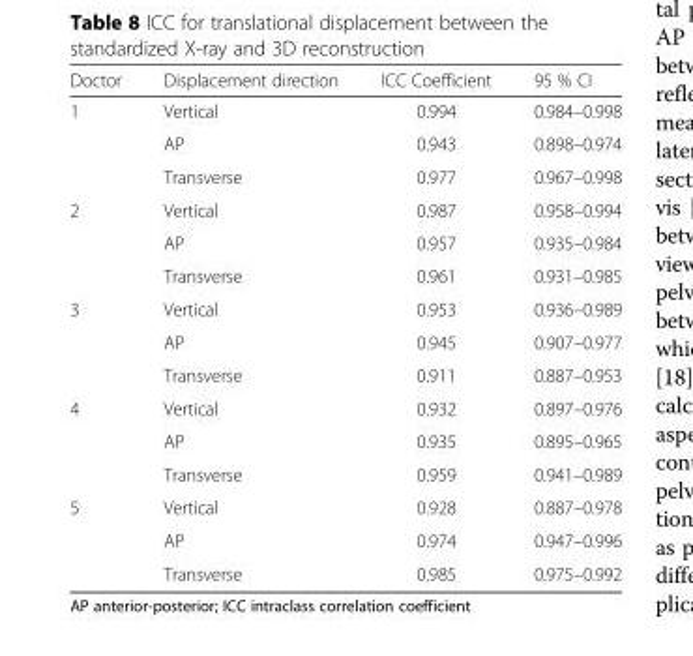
<table><thead><tr><td>Doctor</td><td>Displacement direction</td><td>ICC Coefficient</td><td>95 % CI</td></tr></thead><tbody><tr><td rowspan="3">1</td><td>Vertical</td><td>0.994</td><td>0.984–0.998</td></tr><tr><td>AP</td><td>0.943</td><td>0.898–0.974</td></tr><tr><td>Transverse</td><td>0.977</td><td>0.967–0.998</td></tr><tr><td rowspan="3">2</td><td>Vertical</td><td>0.987</td><td>0.958–0.994</td></tr><tr><td>AP</td><td>0.957</td><td>0.935–0.984</td></tr><tr><td>Transverse</td><td>0.961</td><td>0.931–0.985</td></tr><tr><td rowspan="3">3</td><td>Vertical</td><td>0.953</td><td>0.936–0.989</td></tr><tr><td>AP</td><td>0.945</td><td>0.907–0.977</td></tr><tr><td>Transverse</td><td>0.911</td><td>0.887–0.953</td></tr><tr><td rowspan="3">4</td><td>Vertical</td><td>0.932</td><td>0.897–0.976</td></tr><tr><td>AP</td><td>0.935</td><td>0.895–0.965</td></tr><tr><td>Transverse</td><td>0.959</td><td>0.941–0.989</td></tr><tr><td rowspan="3">5</td><td>Vertical</td><td>0.928</td><td>0.887–0.978</td></tr><tr><td>AP</td><td>0.974</td><td>0.947–0.996</td></tr><tr><td>Transverse</td><td>0.985</td><td>0.975–0.992</td></tr></tbody></table>